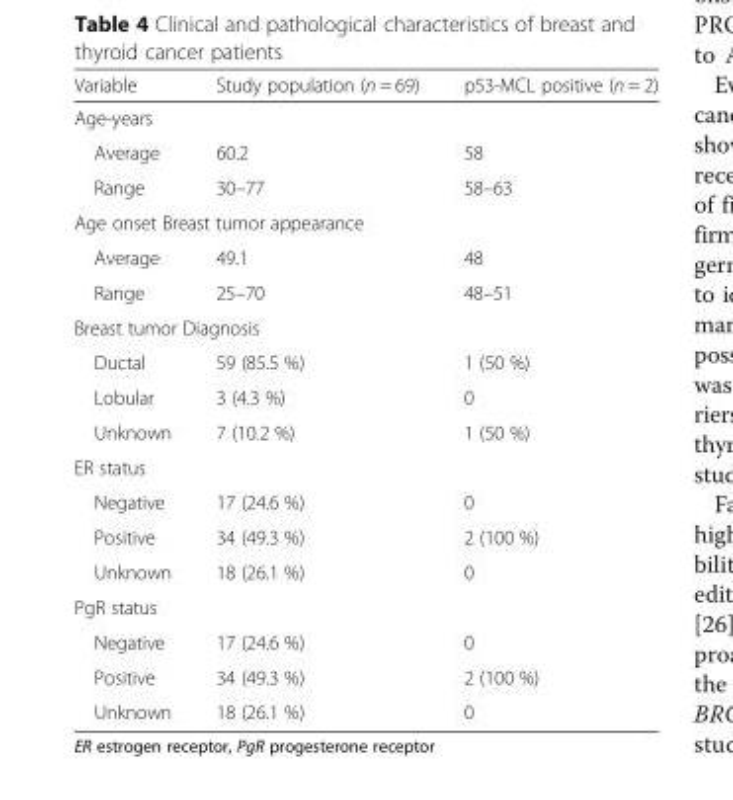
<table><thead><tr><td>Variable</td><td>Study population (n = 69)</td><td>p53-MCL positive (n = 2)</td></tr></thead><tbody><tr><td colspan="3">Age-years</td></tr><tr><td>Average</td><td>60.2</td><td>58</td></tr><tr><td>Range</td><td>30–77</td><td>58–63</td></tr><tr><td colspan="3">Age onset Breast tumor appearance</td></tr><tr><td>Average</td><td>49.1</td><td>48</td></tr><tr><td>Range</td><td>25–70</td><td>48–51</td></tr><tr><td colspan="3">Breast tumor Diagnosis</td></tr><tr><td>Ductal</td><td>59 (85.5 %)</td><td>1 (50 %)</td></tr><tr><td>Lobular</td><td>3 (4.3 %)</td><td>0</td></tr><tr><td>Unknown</td><td>7 (10.2 %)</td><td>1 (50 %)</td></tr><tr><td colspan="3">ER status</td></tr><tr><td>Negative</td><td>17 (24.6 %)</td><td>0</td></tr><tr><td>Positive</td><td>34 (49.3 %)</td><td>2 (100 %)</td></tr><tr><td>Unknown</td><td>18 (26.1 %)</td><td>0</td></tr><tr><td colspan="3">PgR status</td></tr><tr><td>Negative</td><td>17 (24.6 %)</td><td>0</td></tr><tr><td>Positive</td><td>34 (49.3 %)</td><td>2 (100 %)</td></tr><tr><td>Unknown</td><td>18 (26.1 %)</td><td>0</td></tr></tbody></table>